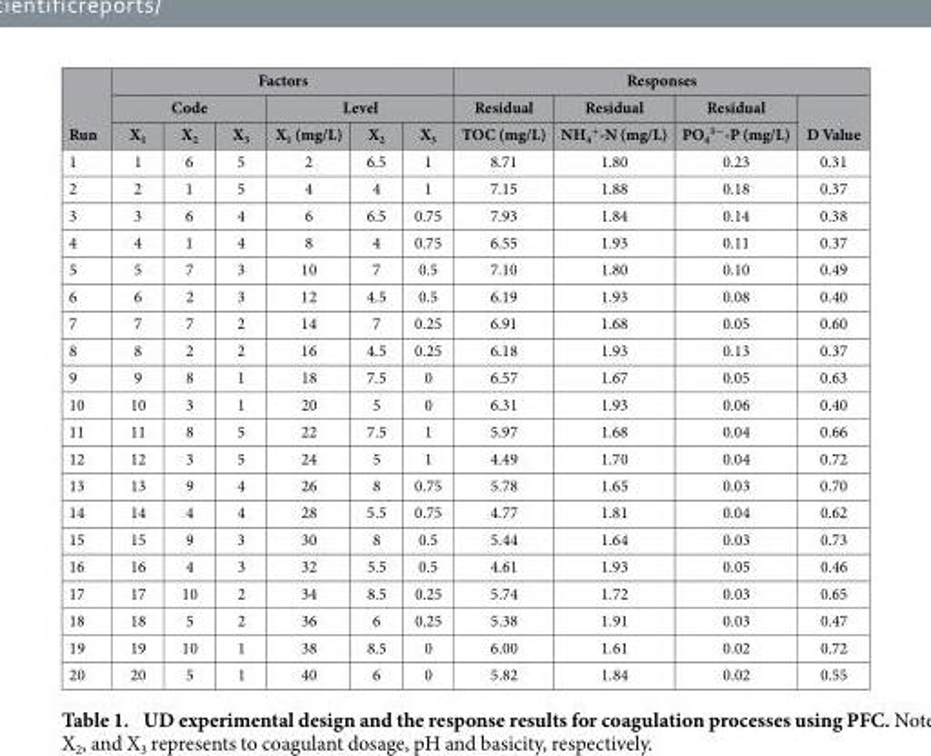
<table><thead><tr><td rowspan="3">Run</td><td colspan="6">Factors</td><td colspan="4">Responses</td></tr><tr><td colspan="3">Code</td><td colspan="3">Level</td><td rowspan="2">Residual TOC (mg/L)</td><td rowspan="2">Residual NH<sub>4</sub> <sup>+</sup>-N (mg/L)</td><td rowspan="2">Residual PO<sub>4</sub> <sup>3−</sup>-P (mg/L)</td><td rowspan="2">D Value</td></tr><tr><td>X<sub>1</sub></td><td>X<sub>2</sub></td><td>X<sub>3</sub></td><td>X<sub>1</sub> (mg/L)</td><td>X<sub>2</sub></td><td>X<sub>3</sub></td></tr></thead><tbody><tr><td>1</td><td>1</td><td>6</td><td>5</td><td>2</td><td>6.5</td><td>1</td><td>8.71</td><td>1.80</td><td>0.23</td><td>0.31</td></tr><tr><td>2</td><td>2</td><td>1</td><td>5</td><td>4</td><td>4</td><td>1</td><td>7.15</td><td>1.88</td><td>0.18</td><td>0.37</td></tr><tr><td>3</td><td>3</td><td>6</td><td>4</td><td>6</td><td>6.5</td><td>0.75</td><td>7.93</td><td>1.84</td><td>0.14</td><td>0.38</td></tr><tr><td>4</td><td>4</td><td>1</td><td>4</td><td>8</td><td>4</td><td>0.75</td><td>6.55</td><td>1.93</td><td>0.11</td><td>0.37</td></tr><tr><td>5</td><td>5</td><td>7</td><td>3</td><td>10</td><td>7</td><td>0.5</td><td>7.10</td><td>1.80</td><td>0.10</td><td>0.49</td></tr><tr><td>6</td><td>6</td><td>2</td><td>3</td><td>12</td><td>4.5</td><td>0.5</td><td>6.19</td><td>1.93</td><td>0.08</td><td>0.40</td></tr><tr><td>7</td><td>7</td><td>7</td><td>2</td><td>14</td><td>7</td><td>0.25</td><td>6.91</td><td>1.68</td><td>0.05</td><td>0.60</td></tr><tr><td>8</td><td>8</td><td>2</td><td>2</td><td>16</td><td>4.5</td><td>0.25</td><td>6.18</td><td>1.93</td><td>0.13</td><td>0.37</td></tr><tr><td>9</td><td>9</td><td>8</td><td>1</td><td>18</td><td>7.5</td><td>0</td><td>6.57</td><td>1.67</td><td>0.05</td><td>0.63</td></tr><tr><td>10</td><td>10</td><td>3</td><td>1</td><td>20</td><td>5</td><td>0</td><td>6.31</td><td>1.93</td><td>0.06</td><td>0.40</td></tr><tr><td>11</td><td>11</td><td>8</td><td>5</td><td>22</td><td>7.5</td><td>1</td><td>5.97</td><td>1.68</td><td>0.04</td><td>0.66</td></tr><tr><td>12</td><td>12</td><td>3</td><td>5</td><td>24</td><td>5</td><td>1</td><td>4.49</td><td>1.70</td><td>0.04</td><td>0.72</td></tr><tr><td>13</td><td>13</td><td>9</td><td>4</td><td>26</td><td>8</td><td>0.75</td><td>5.78</td><td>1.65</td><td>0.03</td><td>0.70</td></tr><tr><td>14</td><td>14</td><td>4</td><td>4</td><td>28</td><td>5.5</td><td>0.75</td><td>4.77</td><td>1.81</td><td>0.04</td><td>0.62</td></tr><tr><td>15</td><td>15</td><td>9</td><td>3</td><td>30</td><td>8</td><td>0.5</td><td>5.44</td><td>1.64</td><td>0.03</td><td>0.73</td></tr><tr><td>16</td><td>16</td><td>4</td><td>3</td><td>32</td><td>5.5</td><td>0.5</td><td>4.61</td><td>1.93</td><td>0.05</td><td>0.46</td></tr><tr><td>17</td><td>17</td><td>10</td><td>2</td><td>34</td><td>8.5</td><td>0.25</td><td>5.74</td><td>1.72</td><td>0.03</td><td>0.65</td></tr><tr><td>18</td><td>18</td><td>5</td><td>2</td><td>36</td><td>6</td><td>0.25</td><td>5.38</td><td>1.91</td><td>0.03</td><td>0.47</td></tr><tr><td>19</td><td>19</td><td>10</td><td>1</td><td>38</td><td>8.5</td><td>0</td><td>6.00</td><td>1.61</td><td>0.02</td><td>0.72</td></tr><tr><td>20</td><td>20</td><td>5</td><td>1</td><td>40</td><td>6</td><td>0</td><td>5.82</td><td>1.84</td><td>0.02</td><td>0.55</td></tr></tbody></table>